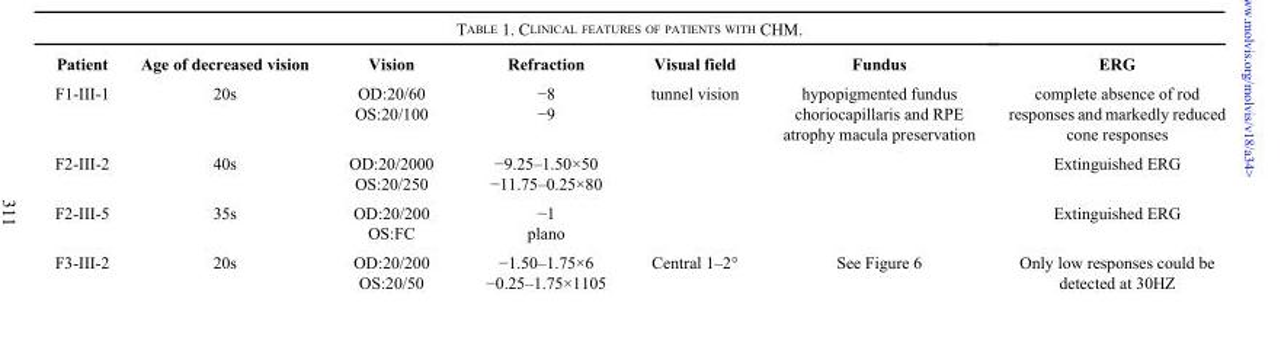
<table><thead><tr><td>Patient</td><td>Age of decreased vision</td><td>Vision</td><td>Refraction</td><td>Visual field</td><td>Fundus</td><td>ERG</td></tr></thead><tbody><tr><td>F1-III-1</td><td>20s</td><td>OD:20/60 OS:20/100</td><td>−8 −9</td><td>tunnel vision</td><td>hypopigmented fundus choriocapillaris and RPE atrophy macula preservation</td><td>complete absence of rod responses and markedly reduced cone responses</td></tr><tr><td>F2-III-2</td><td>40s</td><td>OD:20/2000 OS:20/250</td><td>−9.25–1.50×50 −11.75–0.25×80</td><td></td><td></td><td>Extinguished ERG</td></tr><tr><td>F2-III-5</td><td>35s</td><td>OD:20/200 OS:FC</td><td>−1 plano</td><td></td><td></td><td>Extinguished ERG</td></tr><tr><td>F3-III-2</td><td>20s</td><td>OD:20/200 OS:20/50</td><td>−1.50–1.75×6 −0.25–1.75×1105</td><td>Central 1–2°</td><td>See Figure 6</td><td>Only low responses could be detected at 30HZ</td></tr></tbody></table>